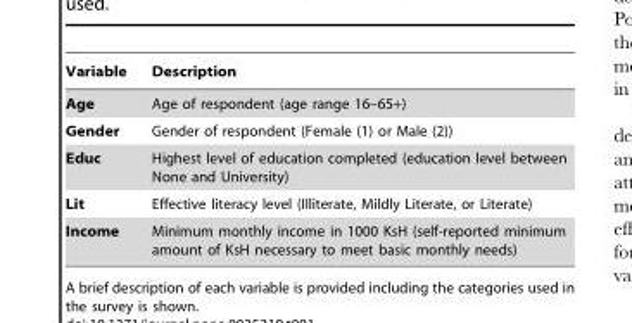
<table><thead><tr><td>Variable</td><td>Description</td></tr></thead><tbody><tr><td>Age</td><td>Age of respondent (age range 16–65+)</td></tr><tr><td>Gender</td><td>Gender of respondent (Female (1) or Male (2))</td></tr><tr><td>Educ</td><td>Highest level of education completed (education level between None and University)</td></tr><tr><td>Lit</td><td>Effective literacy level (Illiterate, Mildly Literate, or Literate)</td></tr><tr><td>Income</td><td>Minimum monthly income in 1000 KsH (self-reported minimum amount of KsH necessary to meet basic monthly needs)</td></tr></tbody></table>